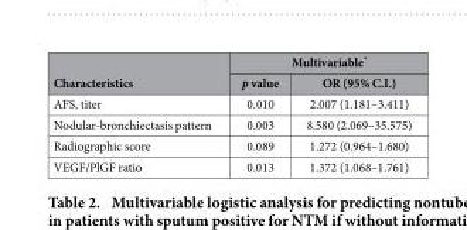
<table><thead><tr><td rowspan="2">Characteristics</td><td colspan="2">Multivariable*</td></tr><tr><td>p value</td><td>OR (95% C.I.)</td></tr></thead><tbody><tr><td>AFS, titer</td><td>0.010</td><td>2.007 (1.181–3.411)</td></tr><tr><td>Nodular-bronchiectasis pattern</td><td>0.003</td><td>8.580 (2.069–35.575)</td></tr><tr><td>Radiographic score</td><td>0.089</td><td>1.272 (0.964–1.680)</td></tr><tr><td>VEGF/PlGF ratio</td><td>0.013</td><td>1.372 (1.068–1.761)</td></tr></tbody></table>